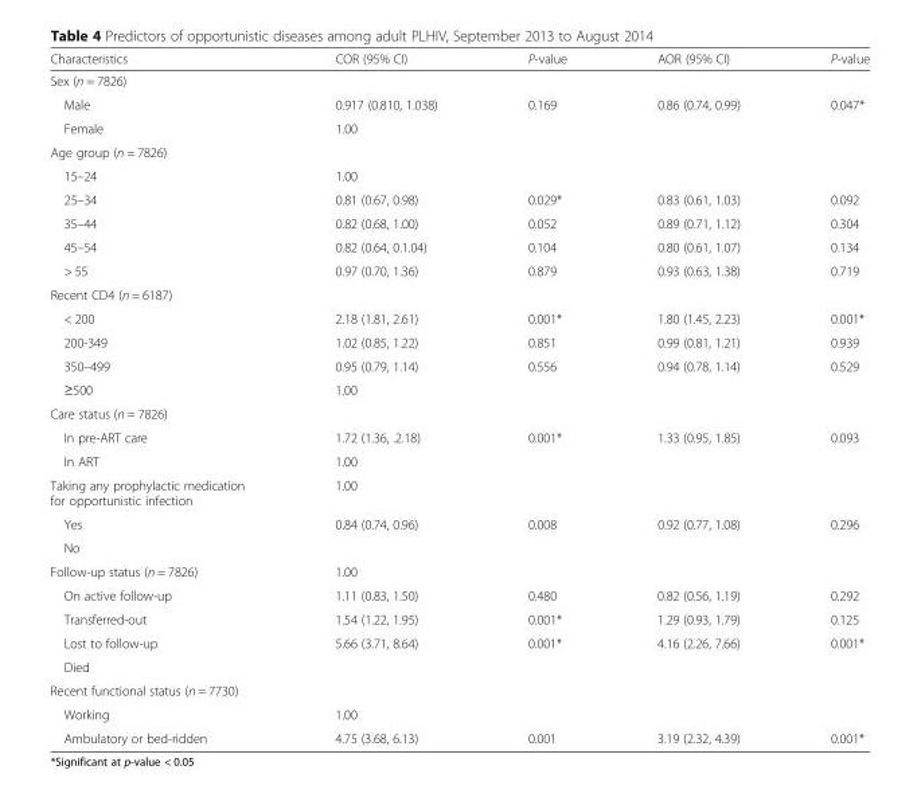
<table><thead><tr><td>Characteristics</td><td>COR (95% CI)</td><td>P-value</td><td>AOR (95% CI)</td><td>P-value</td></tr></thead><tbody><tr><td colspan="5">Sex (n = 7826)</td></tr><tr><td>Male</td><td>0.917 (0.810, 1.038)</td><td>0.169</td><td>0.86 (0.74, 0.99)</td><td>0.047*</td></tr><tr><td>Female</td><td>1.00</td><td></td><td></td><td></td></tr><tr><td colspan="5">Age group (n = 7826)</td></tr><tr><td>15–24</td><td>1.00</td><td></td><td></td><td></td></tr><tr><td>25–34</td><td>0.81 (0.67, 0.98)</td><td>0.029*</td><td>0.83 (0.61, 1.03)</td><td>0.092</td></tr><tr><td>35–44</td><td>0.82 (0.68, 1.00)</td><td>0.052</td><td>0.89 (0.71, 1.12)</td><td>0.304</td></tr><tr><td>45–54</td><td>0.82 (0.64, 0.1.04)</td><td>0.104</td><td>0.80 (0.61, 1.07)</td><td>0.134</td></tr><tr><td>&gt; 55</td><td>0.97 (0.70, 1.36)</td><td>0.879</td><td>0.93 (0.63, 1.38)</td><td>0.719</td></tr><tr><td colspan="5">Recent CD4 (n = 6187)</td></tr><tr><td>&lt; 200</td><td>2.18 (1.81, 2.61)</td><td>0.001*</td><td>1.80 (1.45, 2.23)</td><td>0.001*</td></tr><tr><td>200-349</td><td>1.02 (0.85, 1.22)</td><td>0.851</td><td>0.99 (0.81, 1.21)</td><td>0.939</td></tr><tr><td>350–499</td><td>0.95 (0.79, 1.14)</td><td>0.556</td><td>0.94 (0.78, 1.14)</td><td>0.529</td></tr><tr><td>≥500</td><td>1.00</td><td></td><td></td><td></td></tr><tr><td colspan="5">Care status (n = 7826)</td></tr><tr><td>In pre-ART care</td><td>1.72 (1.36, .2.18)</td><td>0.001*</td><td>1.33 (0.95, 1.85)</td><td>0.093</td></tr><tr><td>In ART</td><td>1.00</td><td></td><td></td><td></td></tr><tr><td>Taking any prophylactic medication for opportunistic infection</td><td>1.00</td><td></td><td></td><td></td></tr><tr><td>Yes</td><td>0.84 (0.74, 0.96)</td><td>0.008</td><td>0.92 (0.77, 1.08)</td><td>0.296</td></tr><tr><td colspan="5">No</td></tr><tr><td>Follow-up status (n = 7826)</td><td>1.00</td><td></td><td></td><td></td></tr><tr><td>On active follow-up</td><td>1.11 (0.83, 1.50)</td><td>0.480</td><td>0.82 (0.56, 1.19)</td><td>0.292</td></tr><tr><td>Transferred-out</td><td>1.54 (1.22, 1.95)</td><td>0.001*</td><td>1.29 (0.93, 1.79)</td><td>0.125</td></tr><tr><td>Lost to follow-up</td><td>5.66 (3.71, 8.64)</td><td>0.001*</td><td>4.16 (2.26, 7.66)</td><td>0.001*</td></tr><tr><td colspan="5">Died</td></tr><tr><td colspan="5">Recent functional status (n = 7730)</td></tr><tr><td>Working</td><td>1.00</td><td></td><td></td><td></td></tr><tr><td>Ambulatory or bed-ridden</td><td>4.75 (3.68, 6.13)</td><td>0.001</td><td>3.19 (2.32, 4.39)</td><td>0.001*</td></tr></tbody></table>